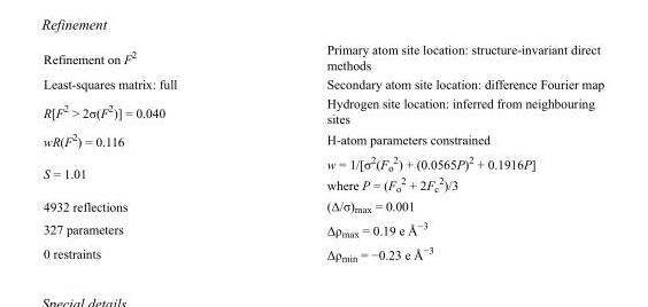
<table><tbody><tr><td>Refinement on F<sup>2</sup></td><td>Primary atom site location: structure-invariant direct methods</td></tr><tr><td>Least-squares matrix: full</td><td>Secondary atom site location: difference Fourier map</td></tr><tr><td>R[F<sup>2</sup> &gt; 2σ(F<sup>2</sup>)] = 0.040</td><td>Hydrogen site location: inferred from neighbouring sites</td></tr><tr><td>wR(F<sup>2</sup>) = 0.116</td><td>H-atom parameters constrained</td></tr><tr><td>S = 1.01</td><td>w = 1/[σ<sup>2</sup>(F<sub>o</sub> <sup>2</sup>) + (0.0565P)<sup>2</sup> + 0.1916P] where P = (F<sub>o</sub> <sup>2</sup> + 2F<sub>c</sub> <sup>2</sup>)/3</td></tr><tr><td>4932 reflections</td><td>(Δ/σ)<sub>max</sub> = 0.001</td></tr><tr><td>327 parameters</td><td>Δρ<sub>max</sub> = 0.19 e Å<sup>−3</sup></td></tr><tr><td>0 restraints</td><td>Δρ<sub>min</sub> = −0.23 e Å<sup>−3</sup></td></tr></tbody></table>